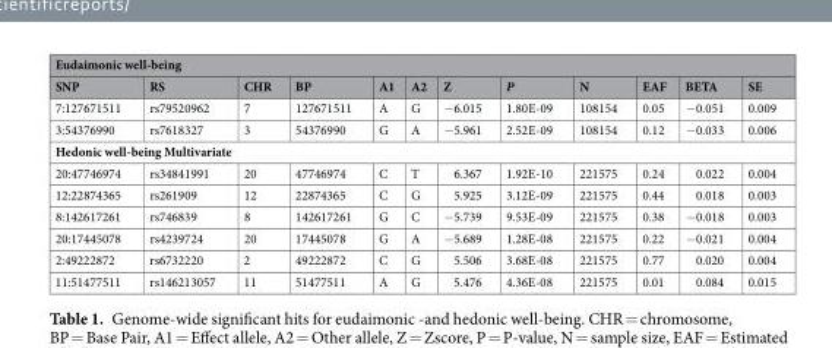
<table><thead><tr><td colspan="12">Eudaimonic well-being</td></tr><tr><td>SNP</td><td>RS</td><td>CHR</td><td>BP</td><td>A1</td><td>A2</td><td>Z</td><td>P</td><td>N</td><td>EAF</td><td>BETA</td><td>SE</td></tr></thead><tbody><tr><td>7:127671511</td><td>rs79520962</td><td>7</td><td>127671511</td><td>A</td><td>G</td><td>−6.015</td><td>1.80E-09</td><td>108154</td><td>0.05</td><td>−0.051</td><td>0.009</td></tr><tr><td>3:54376990</td><td>rs7618327</td><td>3</td><td>54376990</td><td>G</td><td>A</td><td>−5.961</td><td>2.52E-09</td><td>108154</td><td>0.12</td><td>−0.033</td><td>0.006</td></tr><tr><td colspan="12">Hedonic well-being Multivariate</td></tr><tr><td>20:47746974</td><td>rs34841991</td><td>20</td><td>47746974</td><td>C</td><td>T</td><td>6.367</td><td>1.92E-10</td><td>221575</td><td>0.24</td><td>0.022</td><td>0.004</td></tr><tr><td>12:22874365</td><td>rs261909</td><td>12</td><td>22874365</td><td>C</td><td>G</td><td>5.925</td><td>3.12E-09</td><td>221575</td><td>0.44</td><td>0.018</td><td>0.003</td></tr><tr><td>8:142617261</td><td>rs746839</td><td>8</td><td>142617261</td><td>G</td><td>C</td><td>−5.739</td><td>9.53E-09</td><td>221575</td><td>0.38</td><td>−0.018</td><td>0.003</td></tr><tr><td>20:17445078</td><td>rs4239724</td><td>20</td><td>17445078</td><td>G</td><td>A</td><td>−5.689</td><td>1.28E-08</td><td>221575</td><td>0.22</td><td>−0.021</td><td>0.004</td></tr><tr><td>2:49222872</td><td>rs6732220</td><td>2</td><td>49222872</td><td>C</td><td>G</td><td>5.506</td><td>3.68E-08</td><td>221575</td><td>0.77</td><td>0.020</td><td>0.004</td></tr><tr><td>11:51477511</td><td>rs146213057</td><td>11</td><td>51477511</td><td>A</td><td>G</td><td>5.476</td><td>4.36E-08</td><td>221575</td><td>0.01</td><td>0.084</td><td>0.015</td></tr></tbody></table>